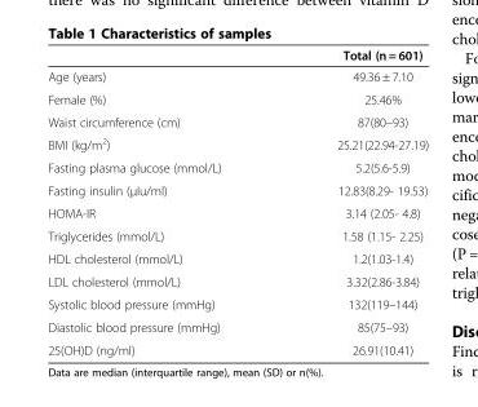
<table><thead><tr><td></td><td>Total (n = 601)</td></tr></thead><tbody><tr><td>Age (years)</td><td>49.36 ± 7.10</td></tr><tr><td>Female (%)</td><td>25.46%</td></tr><tr><td>Waist circumference (cm)</td><td>87(80–93)</td></tr><tr><td>BMI (kg/m<sup>2</sup>)</td><td>25.21(22.94-27.19)</td></tr><tr><td>Fasting plasma glucose (mmol/L)</td><td>5.2(5.6-5.9)</td></tr><tr><td>Fasting insulin (μIu/ml)</td><td>12.83(8.29- 19.53)</td></tr><tr><td>HOMA-IR</td><td>3.14 (2.05- 4.8)</td></tr><tr><td>Triglycerides (mmol/L)</td><td>1.58 (1.15- 2.25)</td></tr><tr><td>HDL cholesterol (mmol/L)</td><td>1.2(1.03-1.4)</td></tr><tr><td>LDL cholesterol (mmol/L)</td><td>3.32(2.86-3.84)</td></tr><tr><td>Systolic blood pressure (mmHg)</td><td>132(119–144)</td></tr><tr><td>Diastolic blood pressure (mmHg)</td><td>85(75–93)</td></tr><tr><td>25(OH)D (ng/ml)</td><td>26.91(10.41)</td></tr></tbody></table>